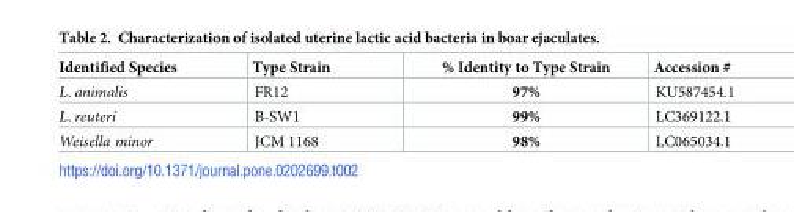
<table><thead><tr><td>Identified Species</td><td>Type Strain</td><td>% Identity to Type Strain</td><td>Accession #</td></tr></thead><tbody><tr><td>L. animalis</td><td>FR12</td><td>97%</td><td>KU587454.1</td></tr><tr><td>L. reuteri</td><td>B-SW1</td><td>99%</td><td>LC369122.1</td></tr><tr><td>Weisella minor</td><td>JCM 1168</td><td>98%</td><td>LC065034.1</td></tr></tbody></table>